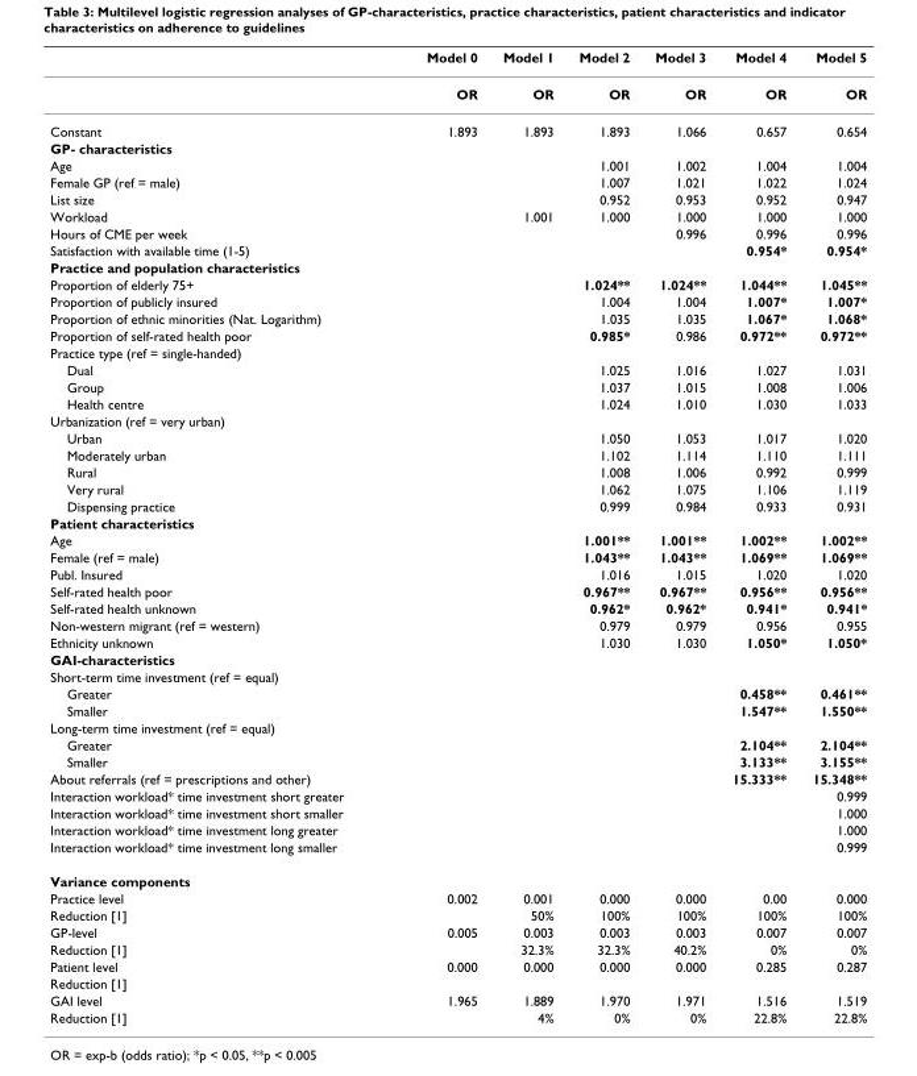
<table><thead><tr><td></td><td>Model 0</td><td>Model 1</td><td>Model 2</td><td>Model 3</td><td>Model 4</td><td>Model 5</td></tr></thead><tbody><tr><td></td><td>OR</td><td>OR</td><td>OR</td><td>OR</td><td>OR</td><td>OR</td></tr><tr><td>Constant</td><td>1.893</td><td>1.893</td><td>1.893</td><td>1.066</td><td>0.657</td><td>0.654</td></tr><tr><td colspan="7">GP- characteristics</td></tr><tr><td>Age</td><td></td><td></td><td>1.001</td><td>1.002</td><td>1.004</td><td>1.004</td></tr><tr><td>Female GP (ref = male)</td><td></td><td></td><td>1.007</td><td>1.021</td><td>1.022</td><td>1.024</td></tr><tr><td>List size</td><td></td><td></td><td>0.952</td><td>0.953</td><td>0.952</td><td>0.947</td></tr><tr><td>Workload</td><td></td><td>1.001</td><td>1.000</td><td>1.000</td><td>1.000</td><td>1.000</td></tr><tr><td>Hours of CME per week</td><td></td><td></td><td></td><td>0.996</td><td>0.996</td><td>0.996</td></tr><tr><td>Satisfaction with available time (1-5)</td><td></td><td></td><td></td><td></td><td>0.954*</td><td>0.954*</td></tr><tr><td colspan="7">Practice and population characteristics</td></tr><tr><td>Proportion of elderly 75+</td><td></td><td></td><td>1.024**</td><td>1.024**</td><td>1.044**</td><td>1.045**</td></tr><tr><td>Proportion of publicly insured</td><td></td><td></td><td>1.004</td><td>1.004</td><td>1.007*</td><td>1.007*</td></tr><tr><td>Proportion of ethnic minorities (Nat. Logarithm)</td><td></td><td></td><td>1.035</td><td>1.035</td><td>1.067*</td><td>1.068*</td></tr><tr><td>Proportion of self-rated health poor</td><td></td><td></td><td>0.985*</td><td>0.986</td><td>0.972**</td><td>0.972**</td></tr><tr><td colspan="7">Practice type (ref = single-handed)</td></tr><tr><td>Dual</td><td></td><td></td><td>1.025</td><td>1.016</td><td>1.027</td><td>1.031</td></tr><tr><td>Group</td><td></td><td></td><td>1.037</td><td>1.015</td><td>1.008</td><td>1.006</td></tr><tr><td>Health centre</td><td></td><td></td><td>1.024</td><td>1.010</td><td>1.030</td><td>1.033</td></tr><tr><td colspan="7">Urbanization (ref = very urban)</td></tr><tr><td>Urban</td><td></td><td></td><td>1.050</td><td>1.053</td><td>1.017</td><td>1.020</td></tr><tr><td>Moderately urban</td><td></td><td></td><td>1.102</td><td>1.114</td><td>1.110</td><td>1.111</td></tr><tr><td>Rural</td><td></td><td></td><td>1.008</td><td>1.006</td><td>0.992</td><td>0.999</td></tr><tr><td>Very rural</td><td></td><td></td><td>1.062</td><td>1.075</td><td>1.106</td><td>1.119</td></tr><tr><td>Dispensing practice</td><td></td><td></td><td>0.999</td><td>0.984</td><td>0.933</td><td>0.931</td></tr><tr><td colspan="7">Patient characteristics</td></tr><tr><td>Age</td><td></td><td></td><td>1.001**</td><td>1.001**</td><td>1.002**</td><td>1.002**</td></tr><tr><td>Female (ref = male)</td><td></td><td></td><td>1.043**</td><td>1.043**</td><td>1.069**</td><td>1.069**</td></tr><tr><td>Publ. Insured</td><td></td><td></td><td>1.016</td><td>1.015</td><td>1.020</td><td>1.020</td></tr><tr><td>Self-rated health poor</td><td></td><td></td><td>0.967**</td><td>0.967**</td><td>0.956**</td><td>0.956**</td></tr><tr><td>Self-rated health unknown</td><td></td><td></td><td>0.962*</td><td>0.962*</td><td>0.941*</td><td>0.941*</td></tr><tr><td>Non-western migrant (ref = western)</td><td></td><td></td><td>0.979</td><td>0.979</td><td>0.956</td><td>0.955</td></tr><tr><td>Ethnicity unknown</td><td></td><td></td><td>1.030</td><td>1.030</td><td>1.050*</td><td>1.050*</td></tr><tr><td colspan="7">GAI-characteristics</td></tr><tr><td colspan="7">Short-term time investment (ref = equal)</td></tr><tr><td>Greater</td><td></td><td></td><td></td><td></td><td>0.458**</td><td>0.461**</td></tr><tr><td>Smaller</td><td></td><td></td><td></td><td></td><td>1.547**</td><td>1.550**</td></tr><tr><td colspan="7">Long-term time investment (ref = equal)</td></tr><tr><td>Greater</td><td></td><td></td><td></td><td></td><td>2.104**</td><td>2.104**</td></tr><tr><td>Smaller</td><td></td><td></td><td></td><td></td><td>3.133**</td><td>3.155**</td></tr><tr><td>About referrals (ref = prescriptions and other)</td><td></td><td></td><td></td><td></td><td>15.333**</td><td>15.348**</td></tr><tr><td>Interaction workload* time investment short greater</td><td></td><td></td><td></td><td></td><td></td><td>0.999</td></tr><tr><td>Interaction workload* time investment short smaller</td><td></td><td></td><td></td><td></td><td></td><td>1.000</td></tr><tr><td>Interaction workload* time investment long greater</td><td></td><td></td><td></td><td></td><td></td><td>1.000</td></tr><tr><td>Interaction workload* time investment long smaller</td><td></td><td></td><td></td><td></td><td></td><td>0.999</td></tr><tr><td colspan="7">Variance components</td></tr><tr><td>Practice level</td><td>0.002</td><td>0.001</td><td>0.000</td><td>0.000</td><td>0.00</td><td>0.000</td></tr><tr><td>Reduction [1]</td><td></td><td>50%</td><td>100%</td><td>100%</td><td>100%</td><td>100%</td></tr><tr><td>GP-level</td><td>0.005</td><td>0.003</td><td>0.003</td><td>0.003</td><td>0.007</td><td>0.007</td></tr><tr><td>Reduction [1]</td><td></td><td>32.3%</td><td>32.3%</td><td>40.2%</td><td>0%</td><td>0%</td></tr><tr><td>Patient level</td><td>0.000</td><td>0.000</td><td>0.000</td><td>0.000</td><td>0.285</td><td>0.287</td></tr><tr><td colspan="7">Reduction [1]</td></tr><tr><td>GAI level</td><td>1.965</td><td>1.889</td><td>1.970</td><td>1.971</td><td>1.516</td><td>1.519</td></tr><tr><td>Reduction [1]</td><td></td><td>4%</td><td>0%</td><td>0%</td><td>22.8%</td><td>22.8%</td></tr></tbody></table>